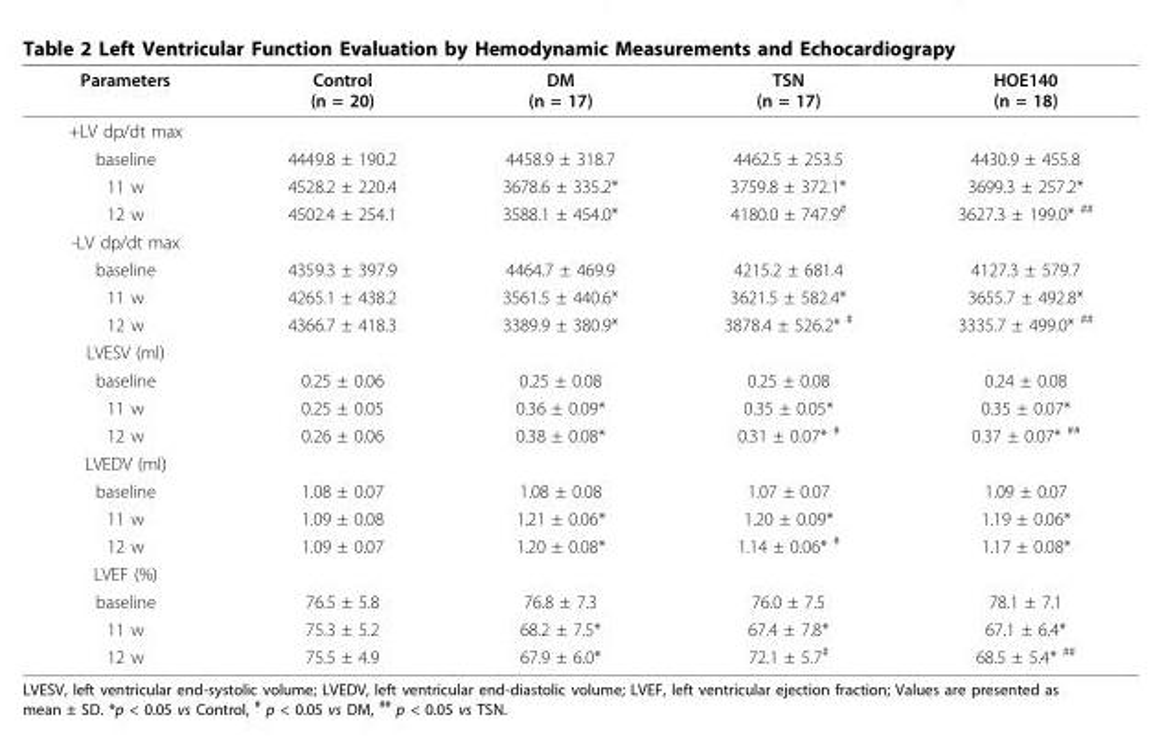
<table><thead><tr><td>Parameters</td><td>Control (n = 20)</td><td>DM (n = 17)</td><td>TSN (n = 17)</td><td>HOE140 (n = 18)</td></tr></thead><tbody><tr><td colspan="5">+LV dp/dt max</td></tr><tr><td>baseline</td><td>4449.8 ± 190.2</td><td>4458.9 ± 318.7</td><td>4462.5 ± 253.5</td><td>4430.9 ± 455.8</td></tr><tr><td>11 w</td><td>4528.2 ± 220.4</td><td>3678.6 ± 335.2*</td><td>3759.8 ± 372.1*</td><td>3699.3 ± 257.2*</td></tr><tr><td>12 w</td><td>4502.4 ± 254.1</td><td>3588.1 ± 454.0*</td><td>4180.0 ± 747.9<sup>#</sup></td><td>3627.3 ± 199.0* <sup>##</sup></td></tr><tr><td colspan="5">-LV dp/dt max</td></tr><tr><td>baseline</td><td>4359.3 ± 397.9</td><td>4464.7 ± 469.9</td><td>4215.2 ± 681.4</td><td>4127.3 ± 579.7</td></tr><tr><td>11 w</td><td>4265.1 ± 438.2</td><td>3561.5 ± 440.6*</td><td>3621.5 ± 582.4*</td><td>3655.7 ± 492.8*</td></tr><tr><td>12 w</td><td>4366.7 ± 418.3</td><td>3389.9 ± 380.9*</td><td>3878.4 ± 526.2* <sup>#</sup></td><td>3335.7 ± 499.0* <sup>##</sup></td></tr><tr><td colspan="5">LVESV (ml)</td></tr><tr><td>baseline</td><td>0.25 ± 0.06</td><td>0.25 ± 0.08</td><td>0.25 ± 0.08</td><td>0.24 ± 0.08</td></tr><tr><td>11 w</td><td>0.25 ± 0.05</td><td>0.36 ± 0.09*</td><td>0.35 ± 0.05*</td><td>0.35 ± 0.07*</td></tr><tr><td>12 w</td><td>0.26 ± 0.06</td><td>0.38 ± 0.08*</td><td>0.31 ± 0.07* <sup>#</sup></td><td>0.37 ± 0.07* <sup>##</sup></td></tr><tr><td colspan="5">LVEDV (ml)</td></tr><tr><td>baseline</td><td>1.08 ± 0.07</td><td>1.08 ± 0.08</td><td>1.07 ± 0.07</td><td>1.09 ± 0.07</td></tr><tr><td>11 w</td><td>1.09 ± 0.08</td><td>1.21 ± 0.06*</td><td>1.20 ± 0.09*</td><td>1.19 ± 0.06*</td></tr><tr><td>12 w</td><td>1.09 ± 0.07</td><td>1.20 ± 0.08*</td><td>1.14 ± 0.06* <sup>#</sup></td><td>1.17 ± 0.08*</td></tr><tr><td colspan="5">LVEF (%)</td></tr><tr><td>baseline</td><td>76.5 ± 5.8</td><td>76.8 ± 7.3</td><td>76.0 ± 7.5</td><td>78.1 ± 7.1</td></tr><tr><td>11 w</td><td>75.3 ± 5.2</td><td>68.2 ± 7.5*</td><td>67.4 ± 7.8*</td><td>67.1 ± 6.4*</td></tr><tr><td>12 w</td><td>75.5 ± 4.9</td><td>67.9 ± 6.0*</td><td>72.1 ± 5.7<sup>#</sup></td><td>68.5 ± 5.4* <sup>##</sup></td></tr></tbody></table>